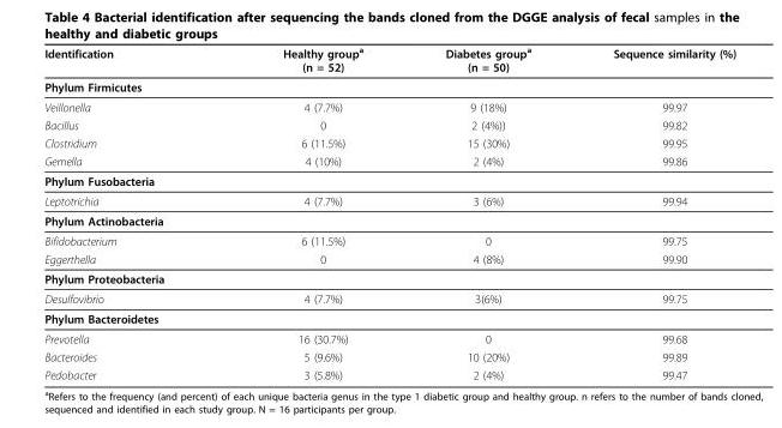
<table><thead><tr><td>Identification</td><td>Healthy group<sup>a</sup> (n = 52)</td><td>Diabetes group<sup>a</sup> (n = 50)</td><td>Sequence similarity (%)</td></tr></thead><tbody><tr><td colspan="4">Phylum Firmicutes</td></tr><tr><td>Veillonella</td><td>4 (7.7%)</td><td>9 (18%)</td><td>99.97</td></tr><tr><td>Bacillus</td><td>0</td><td>2 (4%))</td><td>99.82</td></tr><tr><td>Clostridium</td><td>6 (11.5%)</td><td>15 (30%)</td><td>99.95</td></tr><tr><td>Gemella</td><td>4 (10%)</td><td>2 (4%)</td><td>99.86</td></tr><tr><td colspan="4">Phylum Fusobacteria</td></tr><tr><td>Leptotrichia</td><td>4 (7.7%)</td><td>3 (6%)</td><td>99.94</td></tr><tr><td colspan="4">Phylum Actinobacteria</td></tr><tr><td>Bifidobacterium</td><td>6 (11.5%)</td><td>0</td><td>99.75</td></tr><tr><td>Eggerthella</td><td>0</td><td>4 (8%)</td><td>99.90</td></tr><tr><td colspan="4">Phylum Proteobacteria</td></tr><tr><td>Desulfovibrio</td><td>4 (7.7%)</td><td>3(6%)</td><td>99.75</td></tr><tr><td colspan="4">Phylum Bacteroidetes</td></tr><tr><td>Prevotella</td><td>16 (30.7%)</td><td>0</td><td>99.68</td></tr><tr><td>Bacteroides</td><td>5 (9.6%)</td><td>10 (20%)</td><td>99.89</td></tr><tr><td>Pedobacter</td><td>3 (5.8%)</td><td>2 (4%)</td><td>99.47</td></tr></tbody></table>